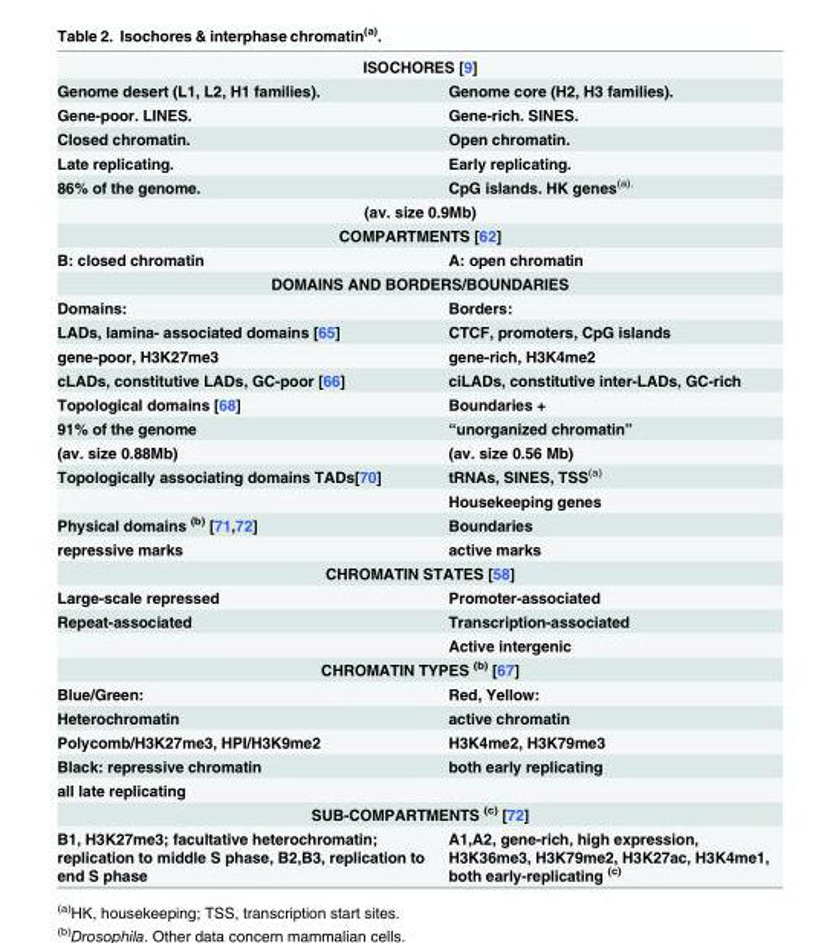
<table><tbody><tr><td colspan="2">ISOCHORES [9]</td></tr><tr><td>Genome desert (L1, L2, H1 families).</td><td>Genome core (H2, H3 families).</td></tr><tr><td>Gene-poor. LINES.</td><td>Gene-rich. SINES.</td></tr><tr><td>Closed chromatin.</td><td>Open chromatin.</td></tr><tr><td>Late replicating.</td><td>Early replicating.</td></tr><tr><td>86% of the genome.</td><td>CpG islands. HK genes<sup>(a).</sup></td></tr><tr><td colspan="2">(av. size 0.9Mb)</td></tr><tr><td colspan="2">COMPARTMENTS [62]</td></tr><tr><td>B: closed chromatin</td><td>A: open chromatin</td></tr><tr><td colspan="2">DOMAINS AND BORDERS/BOUNDARIES</td></tr><tr><td>Domains:</td><td>Borders:</td></tr><tr><td>LADs, lamina- associated domains [65]</td><td>CTCF, promoters, CpG islands</td></tr><tr><td>gene-poor, H3K27me3</td><td>gene-rich, H3K4me2</td></tr><tr><td>cLADs, constitutive LADs, GC-poor [66]</td><td>ciLADs, constitutive inter-LADs, GC-rich</td></tr><tr><td>Topological domains [68]</td><td>Boundaries +</td></tr><tr><td>91% of the genome</td><td>“unorganized chromatin”</td></tr><tr><td>(av. size 0.88Mb)</td><td>(av. size 0.56 Mb)</td></tr><tr><td rowspan="2">Topologically associating domains TADs[70]</td><td>tRNAs, SINES, TSS<sup>(a)</sup></td></tr><tr><td>Housekeeping genes</td></tr><tr><td>Physical domains <sup>(b)</sup> [71,72]</td><td>Boundaries</td></tr><tr><td>repressive marks</td><td>active marks</td></tr><tr><td colspan="2">CHROMATIN STATES [58]</td></tr><tr><td>Large-scale repressed</td><td>Promoter-associated</td></tr><tr><td rowspan="2">Repeat-associated</td><td>Transcription-associated</td></tr><tr><td>Active intergenic</td></tr><tr><td colspan="2">CHROMATIN TYPES <sup>(b)</sup> [67]</td></tr><tr><td>Blue/Green:</td><td>Red, Yellow:</td></tr><tr><td>Heterochromatin</td><td>active chromatin</td></tr><tr><td>Polycomb/H3K27me3, HPI/H3K9me2</td><td>H3K4me2, H3K79me3</td></tr><tr><td>Black: repressive chromatin</td><td>both early replicating</td></tr><tr><td colspan="2">all late replicating</td></tr><tr><td colspan="2">SUB-COMPARTMENTS <sup>(c)</sup> [72]</td></tr><tr><td>B1, H3K27me3; facultative heterochromatin; replication to middle S phase, B2,B3, replication to end S phase</td><td>A1,A2, gene-rich, high expression, H3K36me3, H3K79me2, H3K27ac, H3K4me1, both early-replicating <sup>(c)</sup></td></tr></tbody></table>